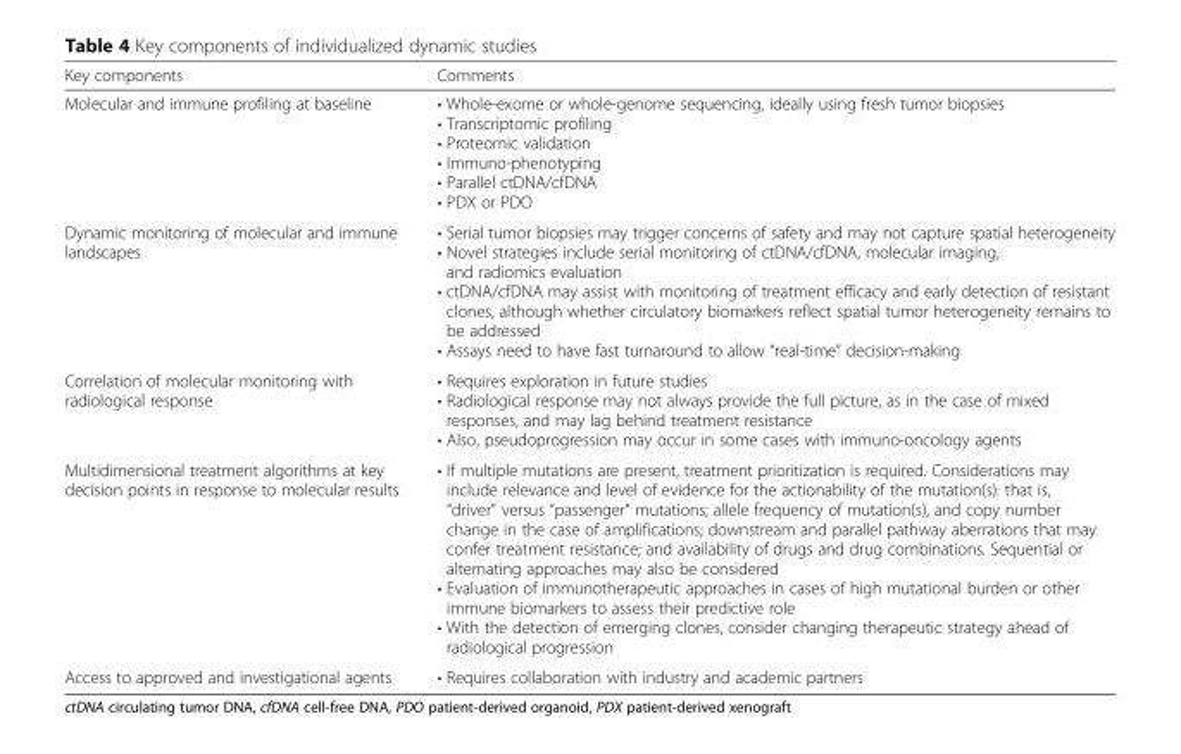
<table><thead><tr><td>Key components</td><td>Comments</td></tr></thead><tbody><tr><td>Molecular and immune profiling at baseline</td><td>• Whole-exome or whole-genome sequencing, ideally using fresh tumor biopsies • Transcriptomic profiling • Proteomic validation • Immuno-phenotyping • Parallel ctDNA/cfDNA • PDX or PDO</td></tr><tr><td>Dynamic monitoring of molecular and immune landscapes</td><td>• Serial tumor biopsies may trigger concerns of safety and may not capture spatial heterogeneity • Novel strategies include serial monitoring of ctDNA/cfDNA, molecular imaging, and radiomics evaluation • ctDNA/cfDNA may assist with monitoring of treatment efficacy and early detection of resistant clones, although whether circulatory biomarkers reflect spatial tumor heterogeneity remains to be addressed • Assays need to have fast turnaround to allow “real-time” decision-making</td></tr><tr><td>Correlation of molecular monitoring with radiological response</td><td>• Requires exploration in future studies • Radiological response may not always provide the full picture, as in the case of mixed responses, and may lag behind treatment resistance • Also, pseudoprogression may occur in some cases with immuno-oncology agents</td></tr><tr><td>Multidimensional treatment algorithms at key decision points in response to molecular results</td><td>• If multiple mutations are present, treatment prioritization is required. Considerations may include relevance and level of evidence for the actionability of the mutation(s): that is, “driver” versus “passenger” mutations; allele frequency of mutation(s), and copy number change in the case of amplifications; downstream and parallel pathway aberrations that may confer treatment resistance; and availability of drugs and drug combinations. Sequential or alternating approaches may also be considered • Evaluation of immunotherapeutic approaches in cases of high mutational burden or other immune biomarkers to assess their predictive role • With the detection of emerging clones, consider changing therapeutic strategy ahead of radiological progression</td></tr><tr><td>Access to approved and investigational agents</td><td>• Requires collaboration with industry and academic partners</td></tr></tbody></table>